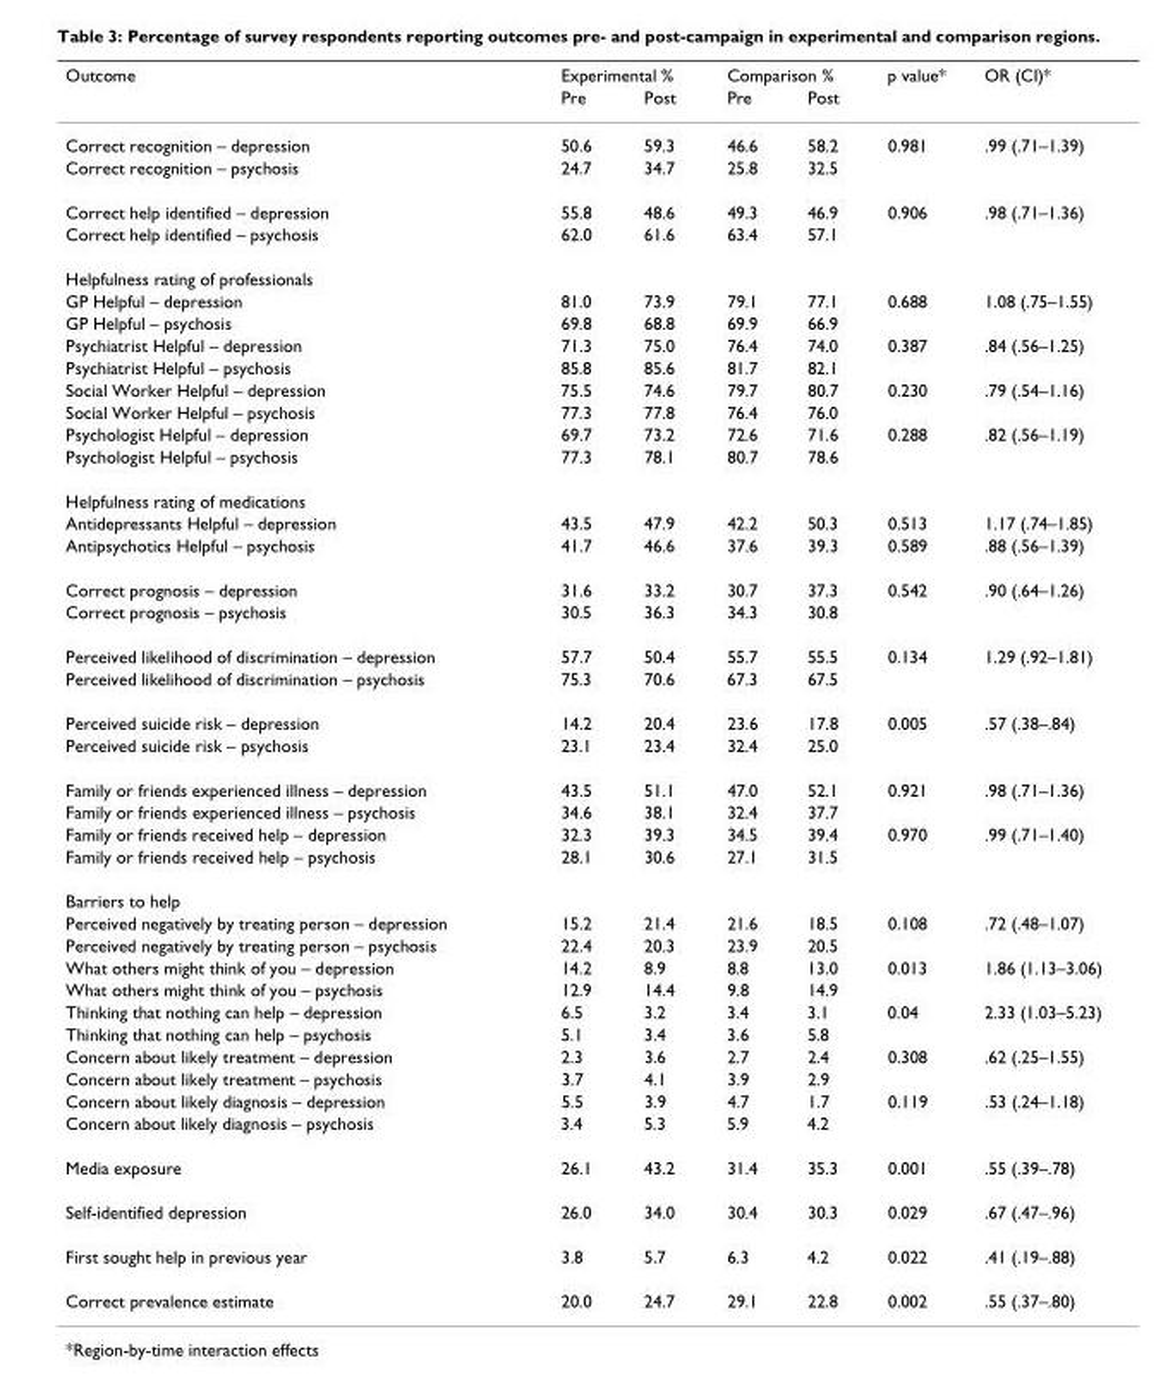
<table><thead><tr><td rowspan="2">Outcome</td><td colspan="2">Experimental %</td><td colspan="2">Comparison %</td><td rowspan="2">p value*</td><td rowspan="2">OR (CI)*</td></tr><tr><td>Pre</td><td>Post</td><td>Pre</td><td>Post</td></tr></thead><tbody><tr><td>Correct recognition – depression</td><td>50.6</td><td>59.3</td><td>46.6</td><td>58.2</td><td>0.981</td><td>.99 (.71–1.39)</td></tr><tr><td>Correct recognition – psychosis</td><td>24.7</td><td>34.7</td><td>25.8</td><td>32.5</td><td></td><td></td></tr><tr><td>Correct help identified – depression</td><td>55.8</td><td>48.6</td><td>49.3</td><td>46.9</td><td>0.906</td><td>.98 (.71–1.36)</td></tr><tr><td>Correct help identified – psychosis</td><td>62.0</td><td>61.6</td><td>63.4</td><td>57.1</td><td></td><td></td></tr><tr><td colspan="7">Helpfulness rating of professionals</td></tr><tr><td>GP Helpful – depression</td><td>81.0</td><td>73.9</td><td>79.1</td><td>77.1</td><td>0.688</td><td>1.08 (.75–1.55)</td></tr><tr><td>GP Helpful – psychosis</td><td>69.8</td><td>68.8</td><td>69.9</td><td>66.9</td><td></td><td></td></tr><tr><td>Psychiatrist Helpful – depression</td><td>71.3</td><td>75.0</td><td>76.4</td><td>74.0</td><td>0.387</td><td>.84 (.56–1.25)</td></tr><tr><td>Psychiatrist Helpful – psychosis</td><td>85.8</td><td>85.6</td><td>81.7</td><td>82.1</td><td></td><td></td></tr><tr><td>Social Worker Helpful – depression</td><td>75.5</td><td>74.6</td><td>79.7</td><td>80.7</td><td>0.230</td><td>.79 (.54–1.16)</td></tr><tr><td>Social Worker Helpful – psychosis</td><td>77.3</td><td>77.8</td><td>76.4</td><td>76.0</td><td></td><td></td></tr><tr><td>Psychologist Helpful – depression</td><td>69.7</td><td>73.2</td><td>72.6</td><td>71.6</td><td>0.288</td><td>.82 (.56–1.19)</td></tr><tr><td>Psychologist Helpful – psychosis</td><td>77.3</td><td>78.1</td><td>80.7</td><td>78.6</td><td></td><td></td></tr><tr><td colspan="7">Helpfulness rating of medications</td></tr><tr><td>Antidepressants Helpful – depression</td><td>43.5</td><td>47.9</td><td>42.2</td><td>50.3</td><td>0.513</td><td>1.17 (.74–1.85)</td></tr><tr><td>Antipsychotics Helpful – psychosis</td><td>41.7</td><td>46.6</td><td>37.6</td><td>39.3</td><td>0.589</td><td>.88 (.56–1.39)</td></tr><tr><td>Correct prognosis – depression</td><td>31.6</td><td>33.2</td><td>30.7</td><td>37.3</td><td>0.542</td><td>.90 (.64–1.26)</td></tr><tr><td>Correct prognosis – psychosis</td><td>30.5</td><td>36.3</td><td>34.3</td><td>30.8</td><td></td><td></td></tr><tr><td>Perceived likelihood of discrimination – depression</td><td>57.7</td><td>50.4</td><td>55.7</td><td>55.5</td><td>0.134</td><td>1.29 (.92–1.81)</td></tr><tr><td>Perceived likelihood of discrimination – psychosis</td><td>75.3</td><td>70.6</td><td>67.3</td><td>67.5</td><td></td><td></td></tr><tr><td>Perceived suicide risk – depression</td><td>14.2</td><td>20.4</td><td>23.6</td><td>17.8</td><td>0.005</td><td>.57 (.38–.84)</td></tr><tr><td>Perceived suicide risk – psychosis</td><td>23.1</td><td>23.4</td><td>32.4</td><td>25.0</td><td></td><td></td></tr><tr><td>Family or friends experienced illness – depression</td><td>43.5</td><td>51.1</td><td>47.0</td><td>52.1</td><td>0.921</td><td>.98 (.71–1.36)</td></tr><tr><td>Family or friends experienced illness – psychosis</td><td>34.6</td><td>38.1</td><td>32.4</td><td>37.7</td><td></td><td></td></tr><tr><td>Family or friends received help – depression</td><td>32.3</td><td>39.3</td><td>34.5</td><td>39.4</td><td>0.970</td><td>.99 (.71–1.40)</td></tr><tr><td>Family or friends received help – psychosis</td><td>28.1</td><td>30.6</td><td>27.1</td><td>31.5</td><td></td><td></td></tr><tr><td colspan="7">Barriers to help</td></tr><tr><td>Perceived negatively by treating person – depression</td><td>15.2</td><td>21.4</td><td>21.6</td><td>18.5</td><td>0.108</td><td>.72 (.48–1.07)</td></tr><tr><td>Perceived negatively by treating person – psychosis</td><td>22.4</td><td>20.3</td><td>23.9</td><td>20.5</td><td></td><td></td></tr><tr><td>What others might think of you – depression</td><td>14.2</td><td>8.9</td><td>8.8</td><td>13.0</td><td>0.013</td><td>1.86 (1.13–3.06)</td></tr><tr><td>What others might think of you – psychosis</td><td>12.9</td><td>14.4</td><td>9.8</td><td>14.9</td><td></td><td></td></tr><tr><td>Thinking that nothing can help – depression</td><td>6.5</td><td>3.2</td><td>3.4</td><td>3.1</td><td>0.04</td><td>2.33 (1.03–5.23)</td></tr><tr><td>Thinking that nothing can help – psychosis</td><td>5.1</td><td>3.4</td><td>3.6</td><td>5.8</td><td></td><td></td></tr><tr><td>Concern about likely treatment – depression</td><td>2.3</td><td>3.6</td><td>2.7</td><td>2.4</td><td>0.308</td><td>.62 (.25–1.55)</td></tr><tr><td>Concern about likely treatment – psychosis</td><td>3.7</td><td>4.1</td><td>3.9</td><td>2.9</td><td></td><td></td></tr><tr><td>Concern about likely diagnosis – depression</td><td>5.5</td><td>3.9</td><td>4.7</td><td>1.7</td><td>0.119</td><td>.53 (.24–1.18)</td></tr><tr><td>Concern about likely diagnosis – psychosis</td><td>3.4</td><td>5.3</td><td>5.9</td><td>4.2</td><td></td><td></td></tr><tr><td>Media exposure</td><td>26.1</td><td>43.2</td><td>31.4</td><td>35.3</td><td>0.001</td><td>.55 (.39–.78)</td></tr><tr><td>Self-identified depression</td><td>26.0</td><td>34.0</td><td>30.4</td><td>30.3</td><td>0.029</td><td>.67 (.47–.96)</td></tr><tr><td>First sought help in previous year</td><td>3.8</td><td>5.7</td><td>6.3</td><td>4.2</td><td>0.022</td><td>.41 (.19–.88)</td></tr><tr><td>Correct prevalence estimate</td><td>20.0</td><td>24.7</td><td>29.1</td><td>22.8</td><td>0.002</td><td>.55 (.37–.80)</td></tr></tbody></table>